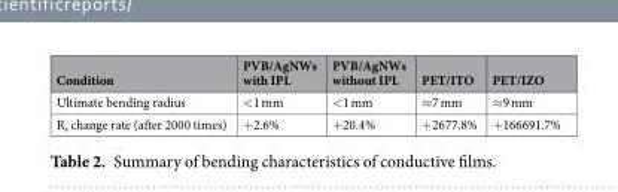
<table><thead><tr><td>Condition</td><td>PVB/AgNWs with IPL</td><td>PVB/AgNWs without IPL</td><td>PET/ITO</td><td>PET/IZO</td></tr></thead><tbody><tr><td>Ultimate bending radius</td><td>&lt;1 mm</td><td>&lt;1 mm</td><td>≈7 mm</td><td>≈9 mm</td></tr><tr><td>R<sub>s</sub> change rate (after 2000 times)</td><td>+2.6%</td><td>+20.4%</td><td>+2677.8%</td><td>+166691.7%</td></tr></tbody></table>